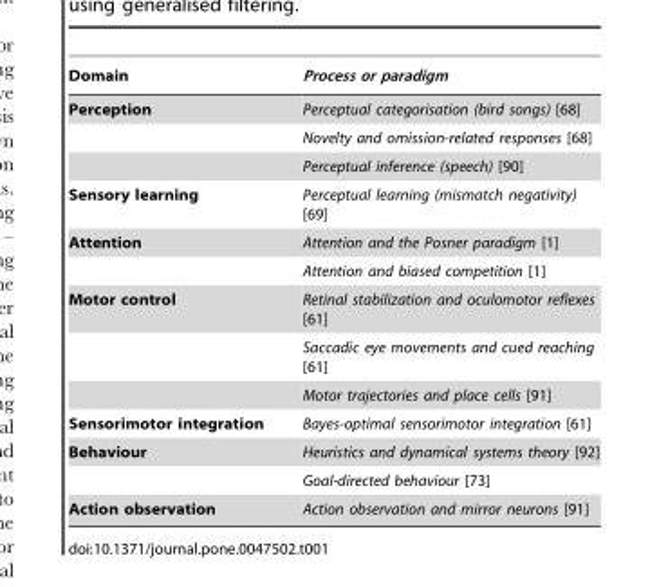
<table><thead><tr><td>Domain</td><td>Process or paradigm</td></tr></thead><tbody><tr><td rowspan="3">Perception</td><td>Perceptual categorisation (bird songs) [68]</td></tr><tr><td>Novelty and omission-related responses [68]</td></tr><tr><td>Perceptual inference (speech) [90]</td></tr><tr><td>Sensory learning</td><td>Perceptual learning (mismatch negativity) [69]</td></tr><tr><td rowspan="2">Attention</td><td>Attention and the Posner paradigm [1]</td></tr><tr><td>Attention and biased competition [1]</td></tr><tr><td rowspan="3">Motor control</td><td>Retinal stabilization and oculomotor reflexes [61]</td></tr><tr><td>Saccadic eye movements and cued reaching [61]</td></tr><tr><td>Motor trajectories and place cells [91]</td></tr><tr><td>Sensorimotor integration</td><td>Bayes-optimal sensorimotor integration [61]</td></tr><tr><td rowspan="2">Behaviour</td><td>Heuristics and dynamical systems theory [92]</td></tr><tr><td>Goal-directed behaviour [73]</td></tr><tr><td>Action observation</td><td>Action observation and mirror neurons [91]</td></tr></tbody></table>